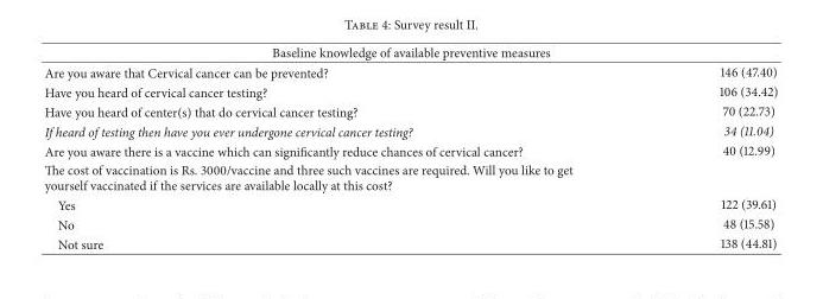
<table><thead><tr><td colspan="2">Baseline knowledge of available preventive measures</td></tr><tr><td>Are you aware that Cervical cancer can be prevented?</td><td>146 (47.40)</td></tr></thead><tbody><tr><td>Have you heard of cervical cancer testing?</td><td>106 (34.42)</td></tr><tr><td>Have you heard of center(s) that do cervical cancer testing?</td><td>70 (22.73)</td></tr><tr><td>If heard of testing then have you ever undergone cervical cancer testing?</td><td>34 (11.04)</td></tr><tr><td>Are you aware there is a vaccine which can significantly reduce chances of cervical cancer?</td><td>40 (12.99)</td></tr><tr><td colspan="2">The cost of vaccination is Rs. 3000/vaccine and three such vaccines are required. Will you like to get yourself vaccinated if the services are available locally at this cost?</td></tr><tr><td>Yes</td><td>122 (39.61)</td></tr><tr><td>No</td><td>48 (15.58)</td></tr><tr><td>Not sure</td><td>138 (44.81)</td></tr></tbody></table>